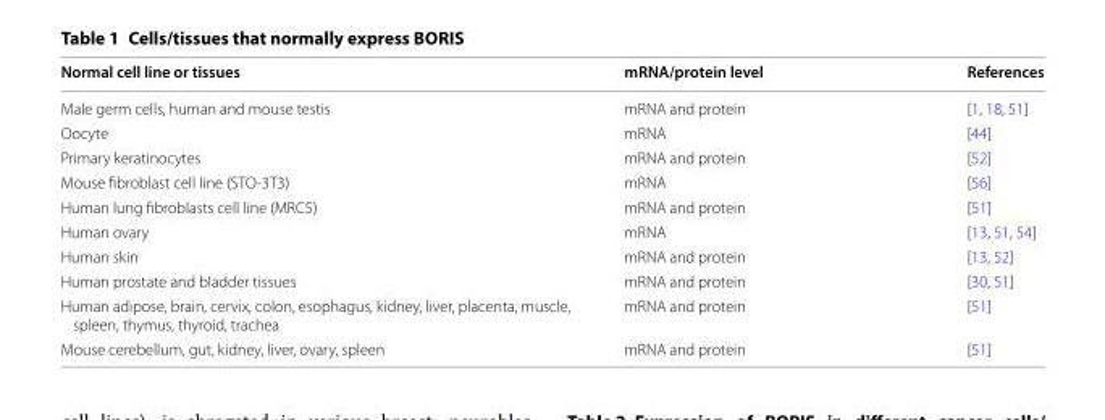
<table><thead><tr><td>Normal cell line or tissues</td><td>mRNA/protein level</td><td>References</td></tr></thead><tbody><tr><td>Male germ cells, human and mouse testis</td><td>mRNA and protein</td><td>[1, 18, 51]</td></tr><tr><td>Oocyte</td><td>mRNA</td><td>[44]</td></tr><tr><td>Primary keratinocytes</td><td>mRNA and protein</td><td>[52]</td></tr><tr><td>Mouse fibroblast cell line (STO-3T3)</td><td>mRNA</td><td>[56]</td></tr><tr><td>Human lung fibroblasts cell line (MRC5)</td><td>mRNA and protein</td><td>[51]</td></tr><tr><td>Human ovary</td><td>mRNA</td><td>[13, 51, 54]</td></tr><tr><td>Human skin</td><td>mRNA and protein</td><td>[13, 52]</td></tr><tr><td>Human prostate and bladder tissues</td><td>mRNA and protein</td><td>[30, 51]</td></tr><tr><td>Human adipose, brain, cervix, colon, esophagus, kidney, liver, placenta, muscle, spleen, thymus, thyroid, trachea</td><td>mRNA and protein</td><td>[51]</td></tr><tr><td>Mouse cerebellum, gut, kidney, liver, ovary, spleen</td><td>mRNA and protein</td><td>[51]</td></tr></tbody></table>